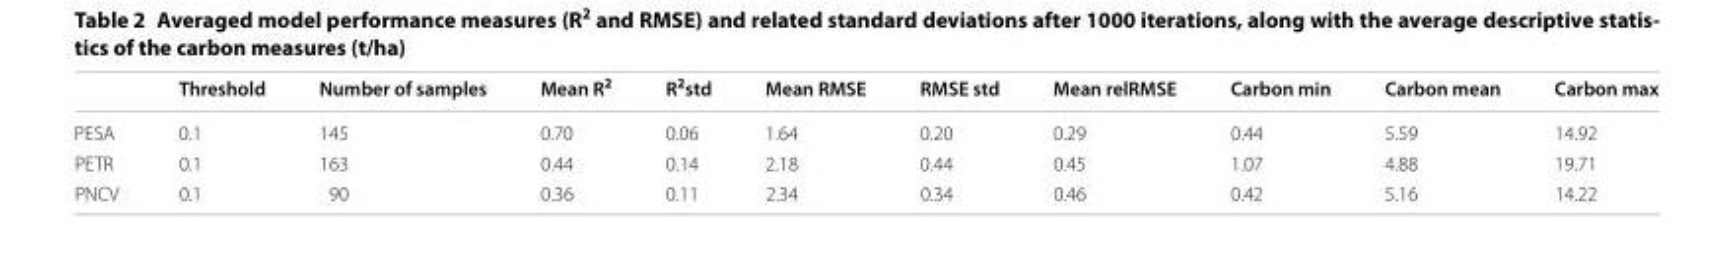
<table><thead><tr><td></td><td>Threshold</td><td>Number of samples</td><td>Mean R<sup>2</sup></td><td>R<sup>2</sup>std</td><td>Mean RMSE</td><td>RMSE std</td><td>Mean relRMSE</td><td>Carbon min</td><td>Carbon mean</td><td>Carbon max</td></tr></thead><tbody><tr><td>PESA</td><td>0.1</td><td>145</td><td>0.70</td><td>0.06</td><td>1.64</td><td>0.20</td><td>0.29</td><td>0.44</td><td>5.59</td><td>14.92</td></tr><tr><td>PETR</td><td>0.1</td><td>163</td><td>0.44</td><td>0.14</td><td>2.18</td><td>0.44</td><td>0.45</td><td>1.07</td><td>4.88</td><td>19.71</td></tr><tr><td>PNCV</td><td>0.1</td><td>90</td><td>0.36</td><td>0.11</td><td>2.34</td><td>0.34</td><td>0.46</td><td>0.42</td><td>5.16</td><td>14.22</td></tr></tbody></table>